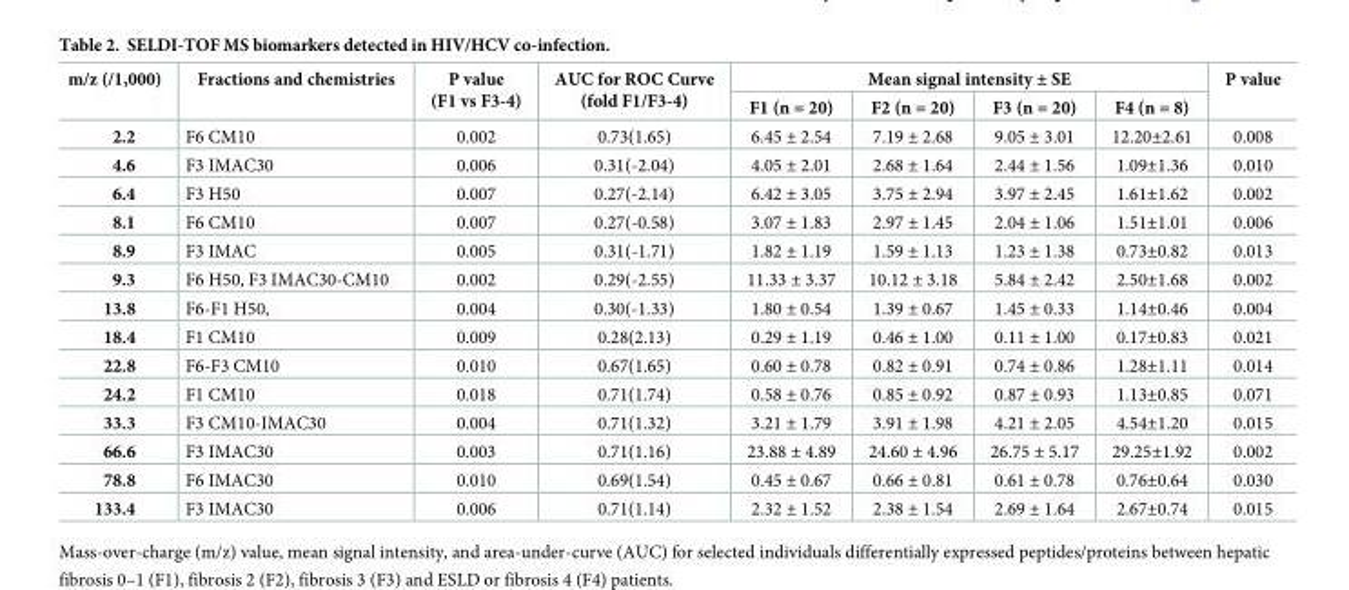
<table><thead><tr><td rowspan="2">m/z (/1,000)</td><td rowspan="2">Fractions and chemistries</td><td rowspan="2">P value (F1 vs F3-4)</td><td rowspan="2">AUC for ROC Curve (fold F1/F3-4)</td><td colspan="4">Mean signal intensity ± SE</td><td rowspan="2">P value</td></tr><tr><td>F1 (n = 20)</td><td>F2 (n = 20)</td><td>F3 (n = 20)</td><td>F4 (n = 8)</td></tr></thead><tbody><tr><td>2.2</td><td>F6 CM10</td><td>0.002</td><td>0.73(1.65)</td><td>6.45 ± 2.54</td><td>7.19 ± 2.68</td><td>9.05 ± 3.01</td><td>12.20±2.61</td><td>0.008</td></tr><tr><td>4.6</td><td>F3 IMAC30</td><td>0.006</td><td>0.31(-2.04)</td><td>4.05 ± 2.01</td><td>2.68 ± 1.64</td><td>2.44 ± 1.56</td><td>1.09±1.36</td><td>0.010</td></tr><tr><td>6.4</td><td>F3 H50</td><td>0.007</td><td>0.27(-2.14)</td><td>6.42 ± 3.05</td><td>3.75 ± 2.94</td><td>3.97 ± 2.45</td><td>1.61±1.62</td><td>0.002</td></tr><tr><td>8.1</td><td>F6 CM10</td><td>0.007</td><td>0.27(-0.58)</td><td>3.07 ± 1.83</td><td>2.97 ± 1.45</td><td>2.04 ± 1.06</td><td>1.51±1.01</td><td>0.006</td></tr><tr><td>8.9</td><td>F3 IMAC</td><td>0.005</td><td>0.31(-1.71)</td><td>1.82 ± 1.19</td><td>1.59 ± 1.13</td><td>1.23 ± 1.38</td><td>0.73±0.82</td><td>0.013</td></tr><tr><td>9.3</td><td>F6 H50, F3 IMAC30-CM10</td><td>0.002</td><td>0.29(-2.55)</td><td>11.33 ± 3.37</td><td>10.12 ± 3.18</td><td>5.84 ± 2.42</td><td>2.50±1.68</td><td>0.002</td></tr><tr><td>13.8</td><td>F6-F1 H50,</td><td>0.004</td><td>0.30(-1.33)</td><td>1.80 ± 0.54</td><td>1.39 ± 0.67</td><td>1.45 ± 0.33</td><td>1.14±0.46</td><td>0.004</td></tr><tr><td>18.4</td><td>F1 CM10</td><td>0.009</td><td>0.28(2.13)</td><td>0.29 ± 1.19</td><td>0.46 ± 1.00</td><td>0.11 ± 1.00</td><td>0.17±0.83</td><td>0.021</td></tr><tr><td>22.8</td><td>F6-F3 CM10</td><td>0.010</td><td>0.67(1.65)</td><td>0.60 ± 0.78</td><td>0.82 ± 0.91</td><td>0.74 ± 0.86</td><td>1.28±1.11</td><td>0.014</td></tr><tr><td>24.2</td><td>F1 CM10</td><td>0.018</td><td>0.71(1.74)</td><td>0.58 ± 0.76</td><td>0.85 ± 0.92</td><td>0.87 ± 0.93</td><td>1.13±0.85</td><td>0.071</td></tr><tr><td>33.3</td><td>F3 CM10-IMAC30</td><td>0.004</td><td>0.71(1.32)</td><td>3.21 ± 1.79</td><td>3.91 ± 1.98</td><td>4.21 ± 2.05</td><td>4.54±1.20</td><td>0.015</td></tr><tr><td>66.6</td><td>F3 IMAC30</td><td>0.003</td><td>0.71(1.16)</td><td>23.88 ± 4.89</td><td>24.60 ± 4.96</td><td>26.75 ± 5.17</td><td>29.25±1.92</td><td>0.002</td></tr><tr><td>78.8</td><td>F6 IMAC30</td><td>0.010</td><td>0.69(1.54)</td><td>0.45 ± 0.67</td><td>0.66 ± 0.81</td><td>0.61 ± 0.78</td><td>0.76±0.64</td><td>0.030</td></tr><tr><td>133.4</td><td>F3 IMAC30</td><td>0.006</td><td>0.71(1.14)</td><td>2.32 ± 1.52</td><td>2.38 ± 1.54</td><td>2.69 ± 1.64</td><td>2.67±0.74</td><td>0.015</td></tr></tbody></table>